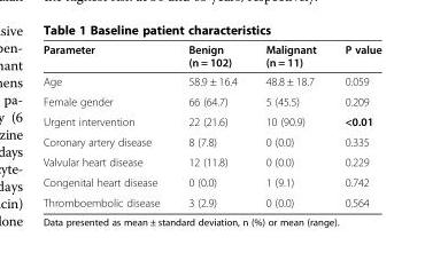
<table><thead><tr><td>Parameter</td><td>Benign (n = 102)</td><td>Malignant (n = 11)</td><td>P value</td></tr></thead><tbody><tr><td>Age</td><td>58.9 ± 16.4</td><td>48.8 ± 18.7</td><td>0.059</td></tr><tr><td>Female gender</td><td>66 (64.7)</td><td>5 (45.5)</td><td>0.209</td></tr><tr><td>Urgent intervention</td><td>22 (21.6)</td><td>10 (90.9)</td><td>&lt;0.01</td></tr><tr><td>Coronary artery disease</td><td>8 (7.8)</td><td>0 (0.0)</td><td>0.335</td></tr><tr><td>Valvular heart disease</td><td>12 (11.8)</td><td>0 (0.0)</td><td>0.229</td></tr><tr><td>Congenital heart disease</td><td>0 (0.0)</td><td>1 (9.1)</td><td>0.742</td></tr><tr><td>Thromboembolic disease</td><td>3 (2.9)</td><td>0 (0.0)</td><td>0.564</td></tr></tbody></table>